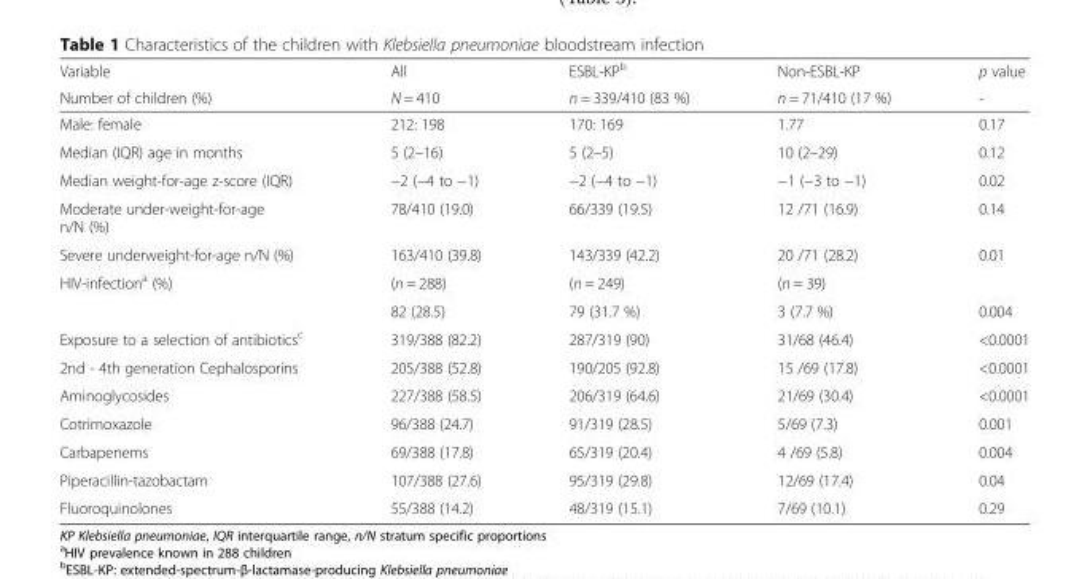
<table><thead><tr><td rowspan="2">Variable Number of children (%)</td><td rowspan="2">All N = 410</td><td rowspan="2">ESBL-KP<sup>b</sup> n = 339/410 (83 %)</td><td rowspan="2">Non-ESBL-KP n = 71/410 (17 %)</td><td rowspan="2">p value -</td></tr><tr></tr></thead><tbody><tr><td>Male: female</td><td>212: 198</td><td>170: 169</td><td>1.77</td><td>0.17</td></tr><tr><td>Median (IQR) age in months</td><td>5 (2–16)</td><td>5 (2–5)</td><td>10 (2–29)</td><td>0.12</td></tr><tr><td>Median weight-for-age z-score (IQR)</td><td>−2 (−4 to −1)</td><td>−2 (−4 to −1)</td><td>−1 (−3 to −1)</td><td>0.02</td></tr><tr><td>Moderate under-weight-for-age n/N (%)</td><td>78/410 (19.0)</td><td>66/339 (19.5)</td><td>12 /71 (16.9)</td><td>0.14</td></tr><tr><td>Severe underweight-for-age n/N (%)</td><td>163/410 (39.8)</td><td>143/339 (42.2)</td><td>20 /71 (28.2)</td><td>0.01</td></tr><tr><td rowspan="2">HIV-infection<sup>a</sup> (%)</td><td>(n = 288)</td><td>(n = 249)</td><td>(n = 39)</td><td></td></tr><tr><td>82 (28.5)</td><td>79 (31.7 %)</td><td>3 (7.7 %)</td><td>0.004</td></tr><tr><td>Exposure to a selection of antibiotics<sup>c</sup></td><td>319/388 (82.2)</td><td>287/319 (90)</td><td>31/68 (46.4)</td><td>&lt;0.0001</td></tr><tr><td>2nd - 4th generation Cephalosporins</td><td>205/388 (52.8)</td><td>190/205 (92.8)</td><td>15 /69 (17.8)</td><td>&lt;0.0001</td></tr><tr><td>Aminoglycosides</td><td>227/388 (58.5)</td><td>206/319 (64.6)</td><td>21/69 (30.4)</td><td>&lt;0.0001</td></tr><tr><td>Cotrimoxazole</td><td>96/388 (24.7)</td><td>91/319 (28.5)</td><td>5/69 (7.3)</td><td>0.001</td></tr><tr><td>Carbapenems</td><td>69/388 (17.8)</td><td>65/319 (20.4)</td><td>4 /69 (5.8)</td><td>0.004</td></tr><tr><td>Piperacillin-tazobactam</td><td>107/388 (27.6)</td><td>95/319 (29.8)</td><td>12/69 (17.4)</td><td>0.04</td></tr><tr><td>Fluoroquinolones</td><td>55/388 (14.2)</td><td>48/319 (15.1)</td><td>7/69 (10.1)</td><td>0.29</td></tr></tbody></table>